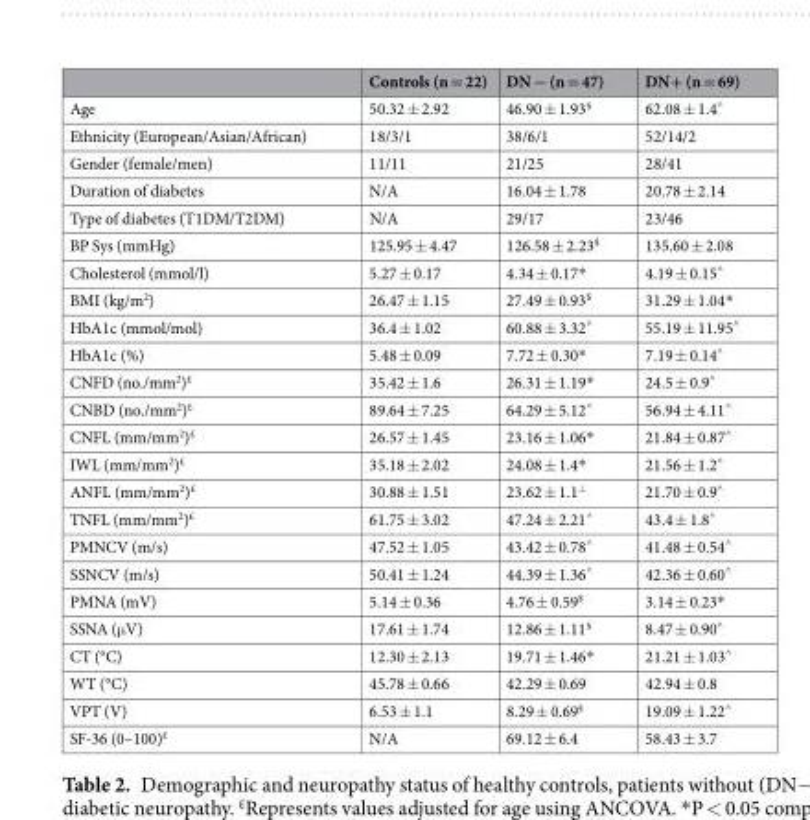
<table><thead><tr><td></td><td>Controls (n = 22)</td><td>DN − (n = 47)</td><td>DN+ (n = 69)</td></tr></thead><tbody><tr><td>Age</td><td>50.32 ± 2.92</td><td>46.90 ± 1.93<sup>§</sup></td><td>62.08 ± 1.4<sup>^</sup></td></tr><tr><td>Ethnicity (European/Asian/African)</td><td>18/3/1</td><td>38/6/1</td><td>52/14/2</td></tr><tr><td>Gender (female/men)</td><td>11/11</td><td>21/25</td><td>28/41</td></tr><tr><td>Duration of diabetes</td><td>N/A</td><td>16.04 ± 1.78</td><td>20.78 ± 2.14</td></tr><tr><td>Type of diabetes (T1DM/T2DM)</td><td>N/A</td><td>29/17</td><td>23/46</td></tr><tr><td>BP Sys (mmHg)</td><td>125.95 ± 4.47</td><td>126.58 ± 2.23<sup>$</sup></td><td>135.60 ± 2.08</td></tr><tr><td>Cholesterol (mmol/l)</td><td>5.27 ± 0.17</td><td>4.34 ± 0.17*</td><td>4.19 ± 0.15<sup>^</sup></td></tr><tr><td>BMI (kg/m<sup>2</sup>)</td><td>26.47 ± 1.15</td><td>27.49 ± 0.93<sup>$</sup></td><td>31.29 ± 1.04*</td></tr><tr><td>HbA1c (mmol/mol)</td><td>36.4 ± 1.02</td><td>60.88 ± 3.32<sup>^</sup></td><td>55.19 ± 11.95<sup>^</sup></td></tr><tr><td>HbA1c (%)</td><td>5.48 ± 0.09</td><td>7.72 ± 0.30*</td><td>7.19 ± 0.14<sup>^</sup></td></tr><tr><td>CNFD (no./mm<sup>2</sup>)<sup>£</sup></td><td>35.42 ± 1.6</td><td>26.31 ± 1.19*</td><td>24.5 ± 0.9<sup>^</sup></td></tr><tr><td>CNBD (no./mm<sup>2</sup>)<sup>£</sup></td><td>89.64 ± 7.25</td><td>64.29 ± 5.12<sup>^</sup></td><td>56.94 ± 4.11<sup>^</sup></td></tr><tr><td>CNFL (mm/mm<sup>2</sup>)<sup>£</sup></td><td>26.57 ± 1.45</td><td>23.16 ± 1.06*</td><td>21.84 ± 0.87<sup>^</sup></td></tr><tr><td>IWL (mm/mm<sup>2</sup>)<sup>£</sup></td><td>35.18 ± 2.02</td><td>24.08 ± 1.4*</td><td>21.56 ± 1.2<sup>^</sup></td></tr><tr><td>ANFL (mm/mm<sup>2</sup>)<sup>£</sup></td><td>30.88 ± 1.51</td><td>23.62 ± 1.1<sup>⊥</sup></td><td>21.70 ± 0.9<sup>^</sup></td></tr><tr><td>TNFL (mm/mm<sup>2</sup>)<sup>£</sup></td><td>61.75 ± 3.02</td><td>47.24 ± 2.21<sup>^</sup></td><td>43.4 ± 1.8<sup>^</sup></td></tr><tr><td>PMNCV (m/s)</td><td>47.52 ± 1.05</td><td>43.42 ± 0.78<sup>^</sup></td><td>41.48 ± 0.54<sup>^</sup></td></tr><tr><td>SSNCV (m/s)</td><td>50.41 ± 1.24</td><td>44.39 ± 1.36<sup>^</sup></td><td>42.36 ± 0.60<sup>^</sup></td></tr><tr><td>PMNA (mV)</td><td>5.14 ± 0.36</td><td>4.76 ± 0.59<sup>$</sup></td><td>3.14 ± 0.23*</td></tr><tr><td>SSNA (μV)</td><td>17.61 ± 1.74</td><td>12.86 ± 1.11<sup>§</sup></td><td>8.47 ± 0.90<sup>^</sup></td></tr><tr><td>CT (°C)</td><td>12.30 ± 2.13</td><td>19.71 ± 1.46*</td><td>21.21 ± 1.03<sup>^</sup></td></tr><tr><td>WT (°C)</td><td>45.78 ± 0.66</td><td>42.29 ± 0.69</td><td>42.94 ± 0.8</td></tr><tr><td>VPT (V)</td><td>6.53 ± 1.1</td><td>8.29 ± 0.69<sup>§</sup></td><td>19.09 ± 1.22<sup>^</sup></td></tr><tr><td>SF-36 (0–100)<sup>£</sup></td><td>N/A</td><td>69.12 ± 6.4</td><td>58.43 ± 3.7</td></tr></tbody></table>